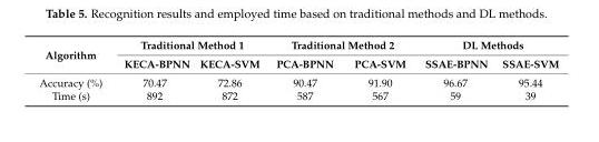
<table><thead><tr><td rowspan="2">Algorithm</td><td colspan="2">Traditional Method 1</td><td colspan="2">Traditional Method 2</td><td colspan="2">DL Methods</td></tr><tr><td>KECA-BPNN</td><td>KECA-SVM</td><td>PCA-BPNN</td><td>PCA-SVM</td><td>SSAE-BPNN</td><td>SSAE-SVM</td></tr></thead><tbody><tr><td>Accuracy (%)</td><td>70.47</td><td>72.86</td><td>90.47</td><td>91.90</td><td>96.67</td><td>95.44</td></tr><tr><td>Time (s)</td><td>892</td><td>872</td><td>587</td><td>567</td><td>59</td><td>39</td></tr></tbody></table>